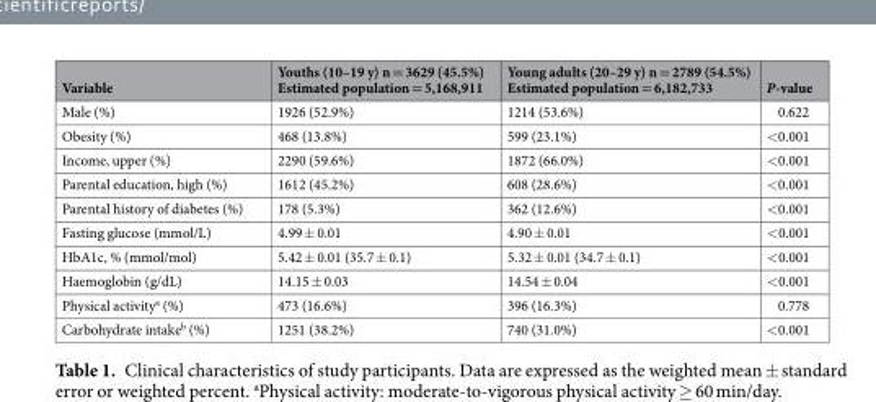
<table><thead><tr><td>Variable</td><td>Youths (10–19 y) n = 3629 (45.5%) Estimated population = 5,168,911</td><td>Young adults (20–29 y) n = 2789 (54.5%) Estimated population = 6,182,733</td><td>P-value</td></tr></thead><tbody><tr><td>Male (%)</td><td>1926 (52.9%)</td><td>1214 (53.6%)</td><td>0.622</td></tr><tr><td>Obesity (%)</td><td>468 (13.8%)</td><td>599 (23.1%)</td><td>&lt;0.001</td></tr><tr><td>Income, upper (%)</td><td>2290 (59.6%)</td><td>1872 (66.0%)</td><td>&lt;0.001</td></tr><tr><td>Parental education, high (%)</td><td>1612 (45.2%)</td><td>608 (28.6%)</td><td>&lt;0.001</td></tr><tr><td>Parental history of diabetes (%)</td><td>178 (5.3%)</td><td>362 (12.6%)</td><td>&lt;0.001</td></tr><tr><td>Fasting glucose (mmol/L)</td><td>4.99 ± 0.01</td><td>4.90 ± 0.01</td><td>&lt;0.001</td></tr><tr><td>HbA1c, % (mmol/mol)</td><td>5.42 ± 0.01 (35.7 ± 0.1)</td><td>5.32 ± 0.01 (34.7 ± 0.1)</td><td>&lt;0.001</td></tr><tr><td>Haemoglobin (g/dL)</td><td>14.15 ± 0.03</td><td>14.54 ± 0.04</td><td>&lt;0.001</td></tr><tr><td>Physical activity<sup>a</sup> (%)</td><td>473 (16.6%)</td><td>396 (16.3%)</td><td>0.778</td></tr><tr><td>Carbohydrate intake<sup>b</sup> (%)</td><td>1251 (38.2%)</td><td>740 (31.0%)</td><td>&lt;0.001</td></tr></tbody></table>